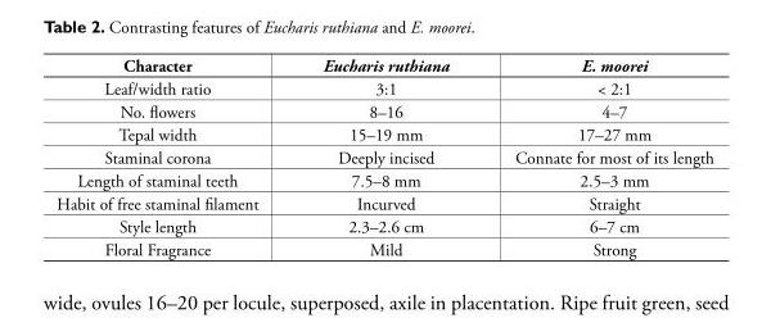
<table><thead><tr><td>Character</td><td>Eucharis ruthiana</td><td>E. moorei</td></tr></thead><tbody><tr><td>Leaf/width ratio</td><td>3:1</td><td>&lt; 2:1</td></tr><tr><td>No. fl owers</td><td>8–16</td><td>4–7</td></tr><tr><td>Tepal width</td><td>15–19 mm</td><td>17–27 mm</td></tr><tr><td>Staminal corona</td><td>Deeply incised</td><td>Connate for most of its length</td></tr><tr><td>Length of staminal teeth</td><td>7.5–8 mm</td><td>2.5–3 mm</td></tr><tr><td>Habit of free staminal fi lament</td><td>Incurved</td><td>Straight</td></tr><tr><td>Style length</td><td>2.3–2.6 cm</td><td>6–7 cm</td></tr><tr><td>Floral Fragrance</td><td>Mild</td><td>Strong</td></tr></tbody></table>